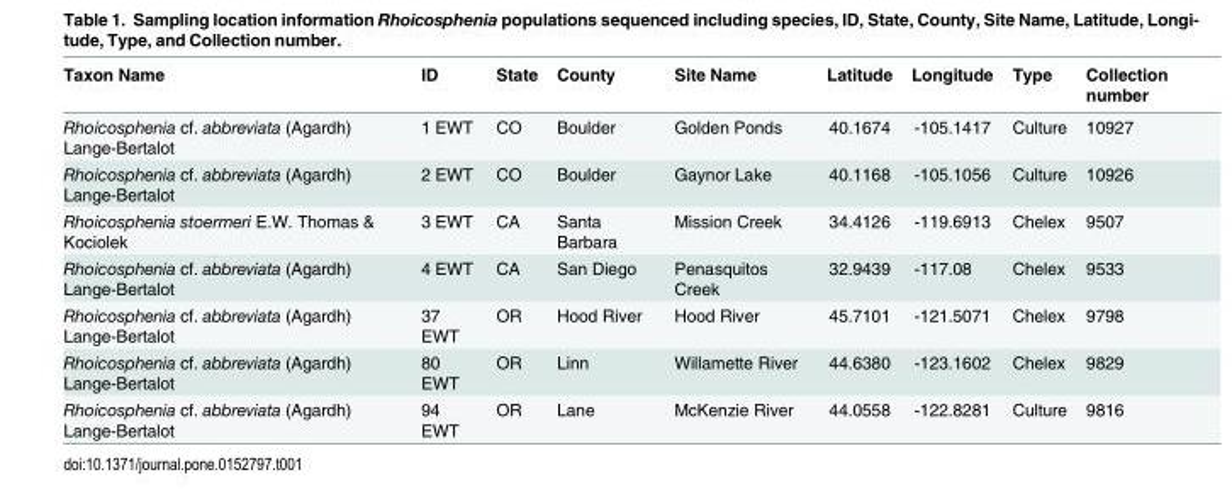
<table><thead><tr><td>Taxon Name</td><td>ID</td><td>State</td><td>County</td><td>Site Name</td><td>Latitude</td><td>Longitude</td><td>Type</td><td>Collection number</td></tr></thead><tbody><tr><td>Rhoicosphenia cf. abbreviata (Agardh) Lange-Bertalot</td><td>1 EWT</td><td>CO</td><td>Boulder</td><td>Golden Ponds</td><td>40.1674</td><td>-105.1417</td><td>Culture</td><td>10927</td></tr><tr><td>Rhoicosphenia cf. abbreviata (Agardh) Lange-Bertalot</td><td>2 EWT</td><td>CO</td><td>Boulder</td><td>Gaynor Lake</td><td>40.1168</td><td>-105.1056</td><td>Culture</td><td>10926</td></tr><tr><td>Rhoicosphenia stoermeri E.W. Thomas &amp; Kociolek</td><td>3 EWT</td><td>CA</td><td>Santa Barbara</td><td>Mission Creek</td><td>34.4126</td><td>-119.6913</td><td>Chelex</td><td>9507</td></tr><tr><td>Rhoicosphenia cf. abbreviata (Agardh) Lange-Bertalot</td><td>4 EWT</td><td>CA</td><td>San Diego</td><td>Penasquitos Creek</td><td>32.9439</td><td>-117.08</td><td>Chelex</td><td>9533</td></tr><tr><td>Rhoicosphenia cf. abbreviata (Agardh) Lange-Bertalot</td><td>37 EWT</td><td>OR</td><td>Hood River</td><td>Hood River</td><td>45.7101</td><td>-121.5071</td><td>Chelex</td><td>9798</td></tr><tr><td>Rhoicosphenia cf. abbreviata (Agardh) Lange-Bertalot</td><td>80 EWT</td><td>OR</td><td>Linn</td><td>Willamette River</td><td>44.6380</td><td>-123.1602</td><td>Chelex</td><td>9829</td></tr><tr><td>Rhoicosphenia cf. abbreviata (Agardh) Lange-Bertalot</td><td>94 EWT</td><td>OR</td><td>Lane</td><td>McKenzie River</td><td>44.0558</td><td>-122.8281</td><td>Culture</td><td>9816</td></tr></tbody></table>